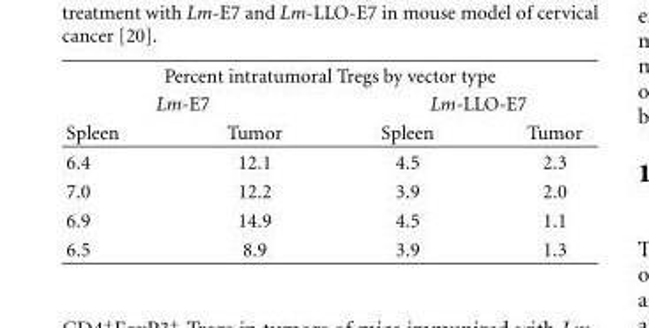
<table><thead><tr><td colspan="4">Percent intratumoral Tregs by vector type</td></tr><tr><td colspan="2">Lm-E7</td><td colspan="2">Lm-LLO-E7</td></tr><tr><td>Spleen</td><td>Tumor</td><td>Spleen</td><td>Tumor</td></tr></thead><tbody><tr><td>6.4</td><td>12.1</td><td>4.5</td><td>2.3</td></tr><tr><td>7.0</td><td>12.2</td><td>3.9</td><td>2.0</td></tr><tr><td>6.9</td><td>14.9</td><td>4.5</td><td>1.1</td></tr><tr><td>6.5</td><td>8.9</td><td>3.9</td><td>1.3</td></tr></tbody></table>